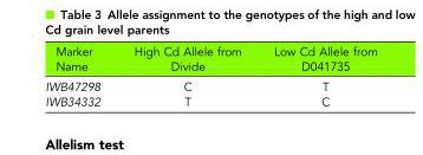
<table><thead><tr><td>Marker Name</td><td>High Cd Allele from Divide</td><td>Low Cd Allele from D041735</td></tr></thead><tbody><tr><td>IWB47298</td><td>C</td><td>T</td></tr><tr><td>IWB34332</td><td>T</td><td>C</td></tr></tbody></table>